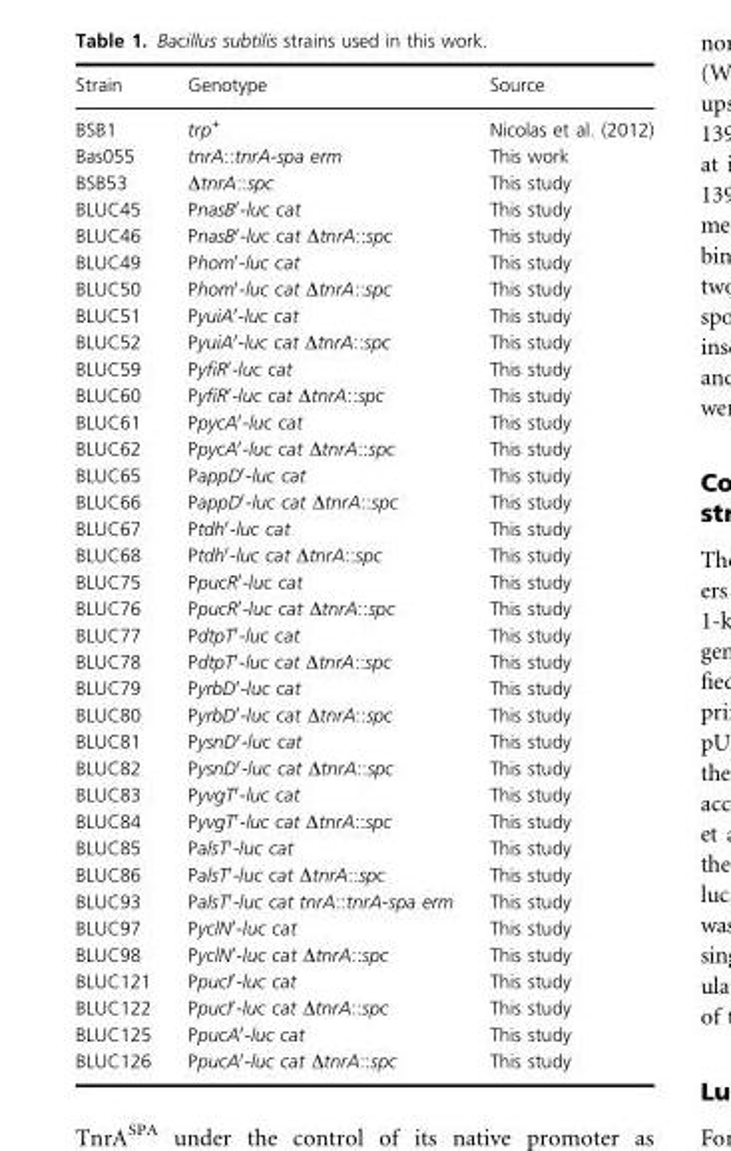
<table><thead><tr><td>Strain</td><td>Genotype</td><td>Source</td></tr></thead><tbody><tr><td>BSB1</td><td>trp<sup>+</sup></td><td>Nicolas et al. (2012)</td></tr><tr><td>Bas055</td><td>tnrA::tnrA-spa erm</td><td>This work</td></tr><tr><td>BSB53</td><td>ΔtnrA::spc</td><td>This study</td></tr><tr><td>BLUC45</td><td>PnasB′-luc cat</td><td>This study</td></tr><tr><td>BLUC46</td><td>PnasB′-luc cat ΔtnrA::spc</td><td>This study</td></tr><tr><td>BLUC49</td><td>Phom′-luc cat</td><td>This study</td></tr><tr><td>BLUC50</td><td>Phom′-luc cat ΔtnrA::spc</td><td>This study</td></tr><tr><td>BLUC51</td><td>PyuiA′-luc cat</td><td>This study</td></tr><tr><td>BLUC52</td><td>PyuiA′-luc cat ΔtnrA::spc</td><td>This study</td></tr><tr><td>BLUC59</td><td>PyfiR′-luc cat</td><td>This study</td></tr><tr><td>BLUC60</td><td>PyfiR′-luc cat ΔtnrA::spc</td><td>This study</td></tr><tr><td>BLUC61</td><td>PpycA′-luc cat</td><td>This study</td></tr><tr><td>BLUC62</td><td>PpycA′-luc cat ΔtnrA::spc</td><td>This study</td></tr><tr><td>BLUC65</td><td>PappD′-luc cat</td><td>This study</td></tr><tr><td>BLUC66</td><td>PappD′-luc cat ΔtnrA::spc</td><td>This study</td></tr><tr><td>BLUC67</td><td>Ptdh′-luc cat</td><td>This study</td></tr><tr><td>BLUC68</td><td>Ptdh′-luc cat ΔtnrA::spc</td><td>This study</td></tr><tr><td>BLUC75</td><td>PpucR′-luc cat</td><td>This study</td></tr><tr><td>BLUC76</td><td>PpucR′-luc cat ΔtnrA::spc</td><td>This study</td></tr><tr><td>BLUC77</td><td>PdtpT′-luc cat</td><td>This study</td></tr><tr><td>BLUC78</td><td>PdtpT′-luc cat ΔtnrA::spc</td><td>This study</td></tr><tr><td>BLUC79</td><td>PyrbD′-luc cat</td><td>This study</td></tr><tr><td>BLUC80</td><td>PyrbD′-luc cat ΔtnrA::spc</td><td>This study</td></tr><tr><td>BLUC81</td><td>PysnD′-luc cat</td><td>This study</td></tr><tr><td>BLUC82</td><td>PysnD′-luc cat ΔtnrA::spc</td><td>This study</td></tr><tr><td>BLUC83</td><td>PyvgT′-luc cat</td><td>This study</td></tr><tr><td>BLUC84</td><td>PyvgT′-luc cat ΔtnrA::spc</td><td>This study</td></tr><tr><td>BLUC85</td><td>PalsT′-luc cat</td><td>This study</td></tr><tr><td>BLUC86</td><td>PalsT′-luc cat ΔtnrA::spc</td><td>This study</td></tr><tr><td>BLUC93</td><td>PalsT′-luc cat tnrA::tnrA-spa erm</td><td>This study</td></tr><tr><td>BLUC97</td><td>PyclN′-luc cat</td><td>This study</td></tr><tr><td>BLUC98</td><td>PyclN′-luc cat ΔtnrA::spc</td><td>This study</td></tr><tr><td>BLUC121</td><td>PpucI′-luc cat</td><td>This study</td></tr><tr><td>BLUC122</td><td>PpucI′-luc cat ΔtnrA::spc</td><td>This study</td></tr><tr><td>BLUC125</td><td>PpucA′-luc cat</td><td>This study</td></tr><tr><td>BLUC126</td><td>PpucA′-luc cat ΔtnrA::spc</td><td>This study</td></tr></tbody></table>